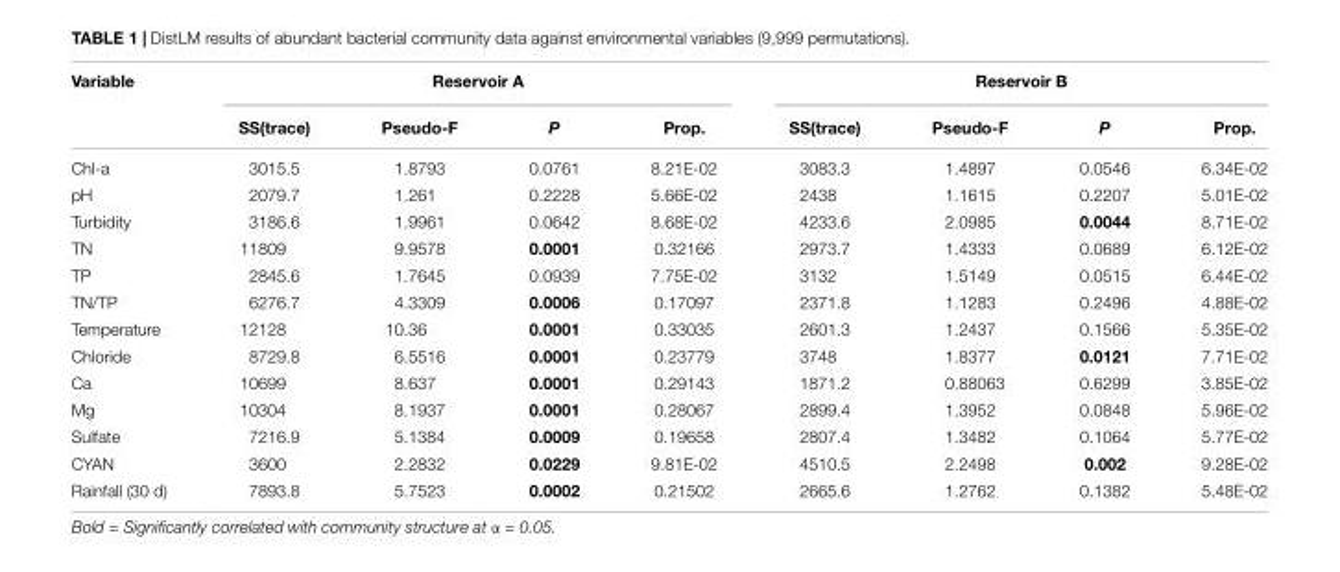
<table><thead><tr><td rowspan="2">Variable</td><td colspan="4">Reservoir A</td><td colspan="4">Reservoir B</td></tr><tr><td>SS(trace)</td><td>Pseudo-F</td><td>P</td><td>Prop.</td><td>SS(trace)</td><td>Pseudo-F</td><td>P</td><td>Prop.</td></tr></thead><tbody><tr><td>Chl-a</td><td>3015.5</td><td>1.8793</td><td>0.0761</td><td>8.21E-02</td><td>3083.3</td><td>1.4897</td><td>0.0546</td><td>6.34E-02</td></tr><tr><td>pH</td><td>2079.7</td><td>1.261</td><td>0.2228</td><td>5.66E-02</td><td>2438</td><td>1.1615</td><td>0.2207</td><td>5.01E-02</td></tr><tr><td>Turbidity</td><td>3186.6</td><td>1.9961</td><td>0.0642</td><td>8.68E-02</td><td>4233.6</td><td>2.0985</td><td>0.0044</td><td>8.71E-02</td></tr><tr><td>TN</td><td>11809</td><td>9.9578</td><td>0.0001</td><td>0.32166</td><td>2973.7</td><td>1.4333</td><td>0.0689</td><td>6.12E-02</td></tr><tr><td>TP</td><td>2845.6</td><td>1.7645</td><td>0.0939</td><td>7.75E-02</td><td>3132</td><td>1.5149</td><td>0.0515</td><td>6.44E-02</td></tr><tr><td>TN/TP</td><td>6276.7</td><td>4.3309</td><td>0.0006</td><td>0.17097</td><td>2371.8</td><td>1.1283</td><td>0.2496</td><td>4.88E-02</td></tr><tr><td>Temperature</td><td>12128</td><td>10.36</td><td>0.0001</td><td>0.33035</td><td>2601.3</td><td>1.2437</td><td>0.1566</td><td>5.35E-02</td></tr><tr><td>Chloride</td><td>8729.8</td><td>6.5516</td><td>0.0001</td><td>0.23779</td><td>3748</td><td>1.8377</td><td>0.0121</td><td>7.71E-02</td></tr><tr><td>Ca</td><td>10699</td><td>8.637</td><td>0.0001</td><td>0.29143</td><td>1871.2</td><td>0.88063</td><td>0.6299</td><td>3.85E-02</td></tr><tr><td>Mg</td><td>10304</td><td>8.1937</td><td>0.0001</td><td>0.28067</td><td>2899.4</td><td>1.3952</td><td>0.0848</td><td>5.96E-02</td></tr><tr><td>Sulfate</td><td>7216.9</td><td>5.1384</td><td>0.0009</td><td>0.19658</td><td>2807.4</td><td>1.3482</td><td>0.1064</td><td>5.77E-02</td></tr><tr><td>CYAN</td><td>3600</td><td>2.2832</td><td>0.0229</td><td>9.81E-02</td><td>4510.5</td><td>2.2498</td><td>0.002</td><td>9.28E-02</td></tr><tr><td>Rainfall (30 d)</td><td>7893.8</td><td>5.7523</td><td>0.0002</td><td>0.21502</td><td>2665.6</td><td>1.2762</td><td>0.1382</td><td>5.48E-02</td></tr></tbody></table>